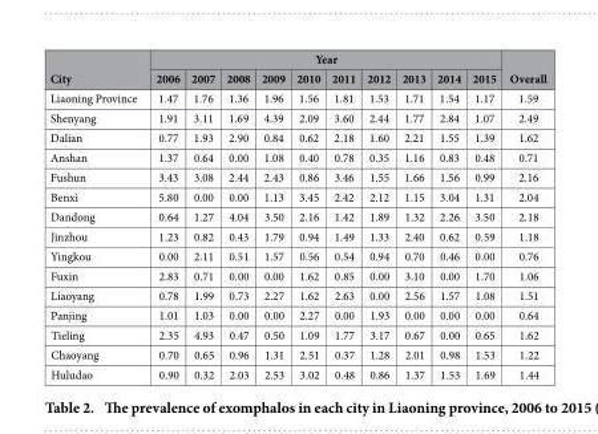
<table><thead><tr><td rowspan="2">City</td><td colspan="10">Year</td><td rowspan="2">Overall</td></tr><tr><td>2006</td><td>2007</td><td>2008</td><td>2009</td><td>2010</td><td>2011</td><td>2012</td><td>2013</td><td>2014</td><td>2015</td></tr></thead><tbody><tr><td>Liaoning Province</td><td>1.47</td><td>1.76</td><td>1.36</td><td>1.96</td><td>1.56</td><td>1.81</td><td>1.53</td><td>1.71</td><td>1.54</td><td>1.17</td><td>1.59</td></tr><tr><td>Shenyang</td><td>1.91</td><td>3.11</td><td>1.69</td><td>4.39</td><td>2.09</td><td>3.60</td><td>2.44</td><td>1.77</td><td>2.84</td><td>1.07</td><td>2.49</td></tr><tr><td>Dalian</td><td>0.77</td><td>1.93</td><td>2.90</td><td>0.84</td><td>0.62</td><td>2.18</td><td>1.60</td><td>2.21</td><td>1.55</td><td>1.39</td><td>1.62</td></tr><tr><td>Anshan</td><td>1.37</td><td>0.64</td><td>0.00</td><td>1.08</td><td>0.40</td><td>0.78</td><td>0.35</td><td>1.16</td><td>0.83</td><td>0.48</td><td>0.71</td></tr><tr><td>Fushun</td><td>3.43</td><td>3.08</td><td>2.44</td><td>2.43</td><td>0.86</td><td>3.46</td><td>1.55</td><td>1.66</td><td>1.56</td><td>0.99</td><td>2.16</td></tr><tr><td>Benxi</td><td>5.80</td><td>0.00</td><td>0.00</td><td>1.13</td><td>3.45</td><td>2.42</td><td>2.12</td><td>1.15</td><td>3.04</td><td>1.31</td><td>2.04</td></tr><tr><td>Dandong</td><td>0.64</td><td>1.27</td><td>4.04</td><td>3.50</td><td>2.16</td><td>1.42</td><td>1.89</td><td>1.32</td><td>2.26</td><td>3.50</td><td>2.18</td></tr><tr><td>Jinzhou</td><td>1.23</td><td>0.82</td><td>0.43</td><td>1.79</td><td>0.94</td><td>1.49</td><td>1.33</td><td>2.40</td><td>0.62</td><td>0.59</td><td>1.18</td></tr><tr><td>Yingkou</td><td>0.00</td><td>2.11</td><td>0.51</td><td>1.57</td><td>0.56</td><td>0.54</td><td>0.94</td><td>0.70</td><td>0.46</td><td>0.00</td><td>0.76</td></tr><tr><td>Fuxin</td><td>2.83</td><td>0.71</td><td>0.00</td><td>0.00</td><td>1.62</td><td>0.85</td><td>0.00</td><td>3.10</td><td>0.00</td><td>1.70</td><td>1.06</td></tr><tr><td>Liaoyang</td><td>0.78</td><td>1.99</td><td>0.73</td><td>2.27</td><td>1.62</td><td>2.63</td><td>0.00</td><td>2.56</td><td>1.57</td><td>1.08</td><td>1.51</td></tr><tr><td>Panjing</td><td>1.01</td><td>1.03</td><td>0.00</td><td>0.00</td><td>2.27</td><td>0.00</td><td>1.93</td><td>0.00</td><td>0.00</td><td>0.00</td><td>0.64</td></tr><tr><td>Tieling</td><td>2.35</td><td>4.93</td><td>0.47</td><td>0.50</td><td>1.09</td><td>1.77</td><td>3.17</td><td>0.67</td><td>0.00</td><td>0.65</td><td>1.62</td></tr><tr><td>Chaoyang</td><td>0.70</td><td>0.65</td><td>0.96</td><td>1.31</td><td>2.51</td><td>0.37</td><td>1.28</td><td>2.01</td><td>0.98</td><td>1.53</td><td>1.22</td></tr><tr><td>Huludao</td><td>0.90</td><td>0.32</td><td>2.03</td><td>2.53</td><td>3.02</td><td>0.48</td><td>0.86</td><td>1.37</td><td>1.53</td><td>1.69</td><td>1.44</td></tr></tbody></table>